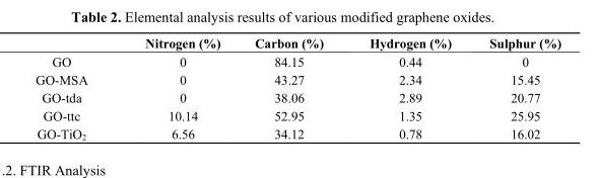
<table><thead><tr><td></td><td>Nitrogen (%)</td><td>Carbon (%)</td><td>Hydrogen (%)</td><td>Sulphur (%)</td></tr></thead><tbody><tr><td>GO</td><td>0</td><td>84.15</td><td>0.44</td><td>0</td></tr><tr><td>GO-MSA</td><td>0</td><td>43.27</td><td>2.34</td><td>15.45</td></tr><tr><td>GO-tda</td><td>0</td><td>38.06</td><td>2.89</td><td>20.77</td></tr><tr><td>GO-ttc</td><td>10.14</td><td>52.95</td><td>1.35</td><td>25.95</td></tr><tr><td>GO-TiO<sub>2</sub></td><td>6.56</td><td>34.12</td><td>0.78</td><td>16.02</td></tr></tbody></table>